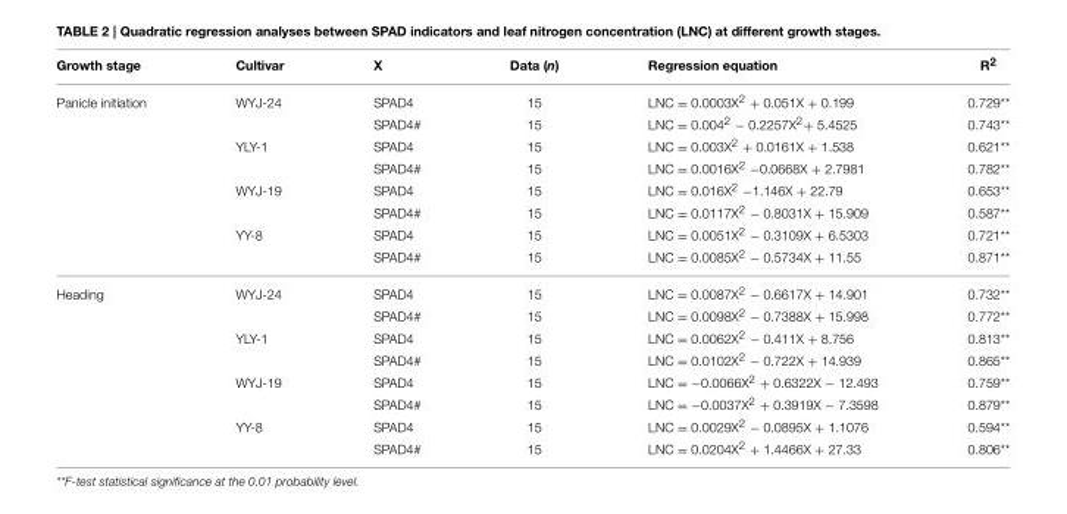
<table><thead><tr><td>Growth stage</td><td>Cultivar</td><td>X</td><td>Data (n)</td><td>Regression equation</td><td>R<sup>2</sup></td></tr></thead><tbody><tr><td rowspan="8">Panicle initiation</td><td>WYJ-24</td><td>SPAD4</td><td>15</td><td>LNC = 0.0003X<sup>2</sup> + 0.051X + 0.199</td><td>0.729**</td></tr><tr><td></td><td>SPAD4#</td><td>15</td><td>LNC = 0.004<sup>2</sup> − 0.2257X<sup>2</sup>+ 5.4525</td><td>0.743**</td></tr><tr><td>YLY-1</td><td>SPAD4</td><td>15</td><td>LNC = 0.003X<sup>2</sup> + 0.0161X + 1.538</td><td>0.621**</td></tr><tr><td></td><td>SPAD4#</td><td>15</td><td>LNC = 0.0016X<sup>2</sup> −0.0668X + 2.7981</td><td>0.782**</td></tr><tr><td>WYJ-19</td><td>SPAD4</td><td>15</td><td>LNC = 0.016X<sup>2</sup> −1.146X + 22.79</td><td>0.653**</td></tr><tr><td></td><td>SPAD4#</td><td>15</td><td>LNC = 0.0117X<sup>2</sup> − 0.8031X + 15.909</td><td>0.587**</td></tr><tr><td>YY-8</td><td>SPAD4</td><td>15</td><td>LNC = 0.0051X<sup>2</sup> − 0.3109X + 6.5303</td><td>0.721**</td></tr><tr><td></td><td>SPAD4#</td><td>15</td><td>LNC = 0.0085X<sup>2</sup> − 0.5734X + 11.55</td><td>0.871**</td></tr><tr><td rowspan="8">Heading</td><td>WYJ-24</td><td>SPAD4</td><td>15</td><td>LNC = 0.0087X<sup>2</sup> − 0.6617X + 14.901</td><td>0.732**</td></tr><tr><td></td><td>SPAD4#</td><td>15</td><td>LNC = 0.0098X<sup>2</sup> − 0.7388X + 15.998</td><td>0.772**</td></tr><tr><td>YLY-1</td><td>SPAD4</td><td>15</td><td>LNC = 0.0062X<sup>2</sup> − 0.411X + 8.756</td><td>0.813**</td></tr><tr><td></td><td>SPAD4#</td><td>15</td><td>LNC = 0.0102X<sup>2</sup> − 0.722X + 14.939</td><td>0.865**</td></tr><tr><td>WYJ-19</td><td>SPAD4</td><td>15</td><td>LNC = −0.0066X<sup>2</sup> + 0.6322X − 12.493</td><td>0.759**</td></tr><tr><td></td><td>SPAD4#</td><td>15</td><td>LNC = −0.0037X<sup>2</sup> + 0.3919X − 7.3598</td><td>0.879**</td></tr><tr><td>YY-8</td><td>SPAD4</td><td>15</td><td>LNC = 0.0029X<sup>2</sup> − 0.0895X + 1.1076</td><td>0.594**</td></tr><tr><td></td><td>SPAD4#</td><td>15</td><td>LNC = 0.0204X<sup>2</sup> + 1.4466X + 27.33</td><td>0.806**</td></tr></tbody></table>